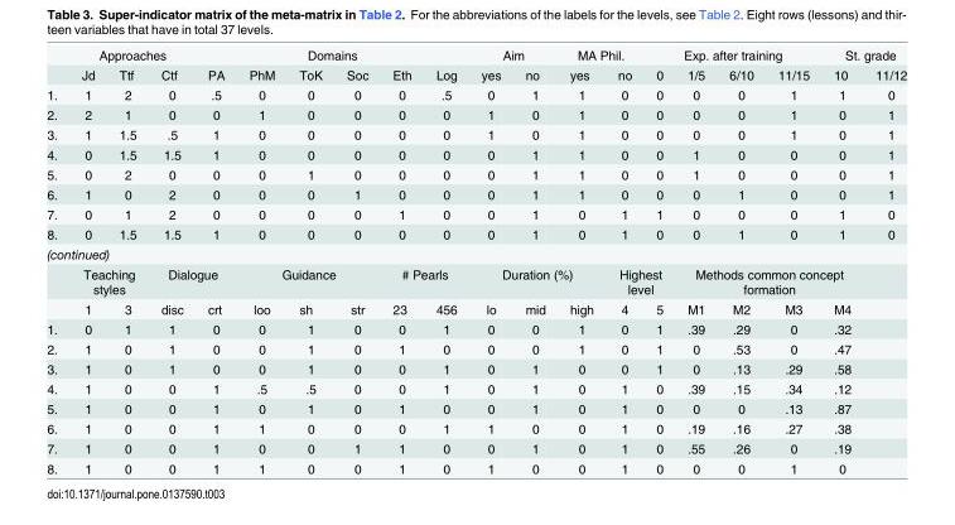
<table><thead><tr><td rowspan="2"></td><td colspan="3">Approaches</td><td colspan="6">Domains</td><td colspan="2">Aim</td><td colspan="2">MA Phil.</td><td colspan="4">Exp. after training</td><td colspan="2">St. grade</td></tr><tr><td>Jd</td><td>Ttf</td><td>Ctf</td><td>PA</td><td>PhM</td><td>ToK</td><td>Soc</td><td>Eth</td><td>Log</td><td>yes</td><td>no</td><td>yes</td><td>no</td><td>0</td><td>1/5</td><td>6/10</td><td>11/15</td><td>10</td><td>11/12</td></tr></thead><tbody><tr><td>1.</td><td>1</td><td>2</td><td>0</td><td>.5</td><td>0</td><td>0</td><td>0</td><td>0</td><td>.5</td><td>0</td><td>1</td><td>1</td><td>0</td><td>0</td><td>0</td><td>0</td><td>1</td><td>1</td><td>0</td></tr><tr><td>2.</td><td>2</td><td>1</td><td>0</td><td>0</td><td>1</td><td>0</td><td>0</td><td>0</td><td>0</td><td>1</td><td>0</td><td>1</td><td>0</td><td>0</td><td>0</td><td>0</td><td>1</td><td>0</td><td>1</td></tr><tr><td>3.</td><td>1</td><td>1.5</td><td>.5</td><td>1</td><td>0</td><td>0</td><td>0</td><td>0</td><td>0</td><td>1</td><td>0</td><td>1</td><td>0</td><td>0</td><td>0</td><td>0</td><td>1</td><td>0</td><td>1</td></tr><tr><td>4.</td><td>0</td><td>1.5</td><td>1.5</td><td>1</td><td>0</td><td>0</td><td>0</td><td>0</td><td>0</td><td>0</td><td>1</td><td>1</td><td>0</td><td>0</td><td>1</td><td>0</td><td>0</td><td>0</td><td>1</td></tr><tr><td>5.</td><td>0</td><td>2</td><td>0</td><td>0</td><td>0</td><td>1</td><td>0</td><td>0</td><td>0</td><td>0</td><td>1</td><td>1</td><td>0</td><td>0</td><td>1</td><td>0</td><td>0</td><td>0</td><td>1</td></tr><tr><td>6.</td><td>1</td><td>0</td><td>2</td><td>0</td><td>0</td><td>0</td><td>1</td><td>0</td><td>0</td><td>0</td><td>1</td><td>1</td><td>0</td><td>0</td><td>0</td><td>1</td><td>0</td><td>0</td><td>1</td></tr><tr><td>7.</td><td>0</td><td>1</td><td>2</td><td>0</td><td>0</td><td>0</td><td>0</td><td>1</td><td>0</td><td>0</td><td>1</td><td>0</td><td>1</td><td>1</td><td>0</td><td>0</td><td>0</td><td>1</td><td>0</td></tr><tr><td>8.</td><td>0</td><td>1.5</td><td>1.5</td><td>1</td><td>0</td><td>0</td><td>0</td><td>0</td><td>0</td><td>0</td><td>1</td><td>0</td><td>1</td><td>0</td><td>0</td><td>1</td><td>0</td><td>1</td><td>0</td></tr><tr><td colspan="20">(continued)</td></tr><tr><td></td><td colspan="2">Teaching styles</td><td colspan="2">Dialogue</td><td colspan="3">Guidance</td><td colspan="2"># Pearls</td><td colspan="3">Duration (%)</td><td colspan="2">Highest level</td><td colspan="4">Methods common concept formation</td><td></td></tr><tr><td></td><td>1</td><td>3</td><td>disc</td><td>crt</td><td>loo</td><td>sh</td><td>str</td><td>23</td><td>456</td><td>lo</td><td>mid</td><td>high</td><td>4</td><td>5</td><td>M1</td><td>M2</td><td>M3</td><td>M4</td><td></td></tr><tr><td>1.</td><td>0</td><td>1</td><td>1</td><td>0</td><td>0</td><td>1</td><td>0</td><td>0</td><td>1</td><td>0</td><td>0</td><td>1</td><td>0</td><td>1</td><td>.39</td><td>.29</td><td>0</td><td>.32</td><td></td></tr><tr><td>2.</td><td>1</td><td>0</td><td>1</td><td>0</td><td>0</td><td>1</td><td>0</td><td>1</td><td>0</td><td>0</td><td>0</td><td>1</td><td>0</td><td>1</td><td>0</td><td>.53</td><td>0</td><td>.47</td><td></td></tr><tr><td>3.</td><td>1</td><td>0</td><td>1</td><td>0</td><td>0</td><td>1</td><td>0</td><td>0</td><td>1</td><td>0</td><td>1</td><td>0</td><td>0</td><td>1</td><td>0</td><td>.13</td><td>.29</td><td>.58</td><td></td></tr><tr><td>4.</td><td>1</td><td>0</td><td>0</td><td>1</td><td>.5</td><td>.5</td><td>0</td><td>0</td><td>1</td><td>0</td><td>1</td><td>0</td><td>1</td><td>0</td><td>.39</td><td>.15</td><td>.34</td><td>.12</td><td></td></tr><tr><td>5.</td><td>1</td><td>0</td><td>0</td><td>1</td><td>0</td><td>1</td><td>0</td><td>1</td><td>0</td><td>0</td><td>1</td><td>0</td><td>1</td><td>0</td><td>0</td><td>0</td><td>.13</td><td>.87</td><td></td></tr><tr><td>6.</td><td>1</td><td>0</td><td>0</td><td>1</td><td>1</td><td>0</td><td>0</td><td>0</td><td>1</td><td>1</td><td>0</td><td>0</td><td>1</td><td>0</td><td>.19</td><td>.16</td><td>.27</td><td>.38</td><td></td></tr><tr><td>7.</td><td>1</td><td>0</td><td>0</td><td>1</td><td>0</td><td>0</td><td>1</td><td>1</td><td>0</td><td>0</td><td>1</td><td>0</td><td>1</td><td>0</td><td>.55</td><td>.26</td><td>0</td><td>.19</td><td></td></tr><tr><td>8.</td><td>1</td><td>0</td><td>0</td><td>1</td><td>1</td><td>0</td><td>0</td><td>1</td><td>0</td><td>1</td><td>0</td><td>0</td><td>1</td><td>0</td><td>0</td><td>0</td><td>1</td><td>0</td><td></td></tr></tbody></table>